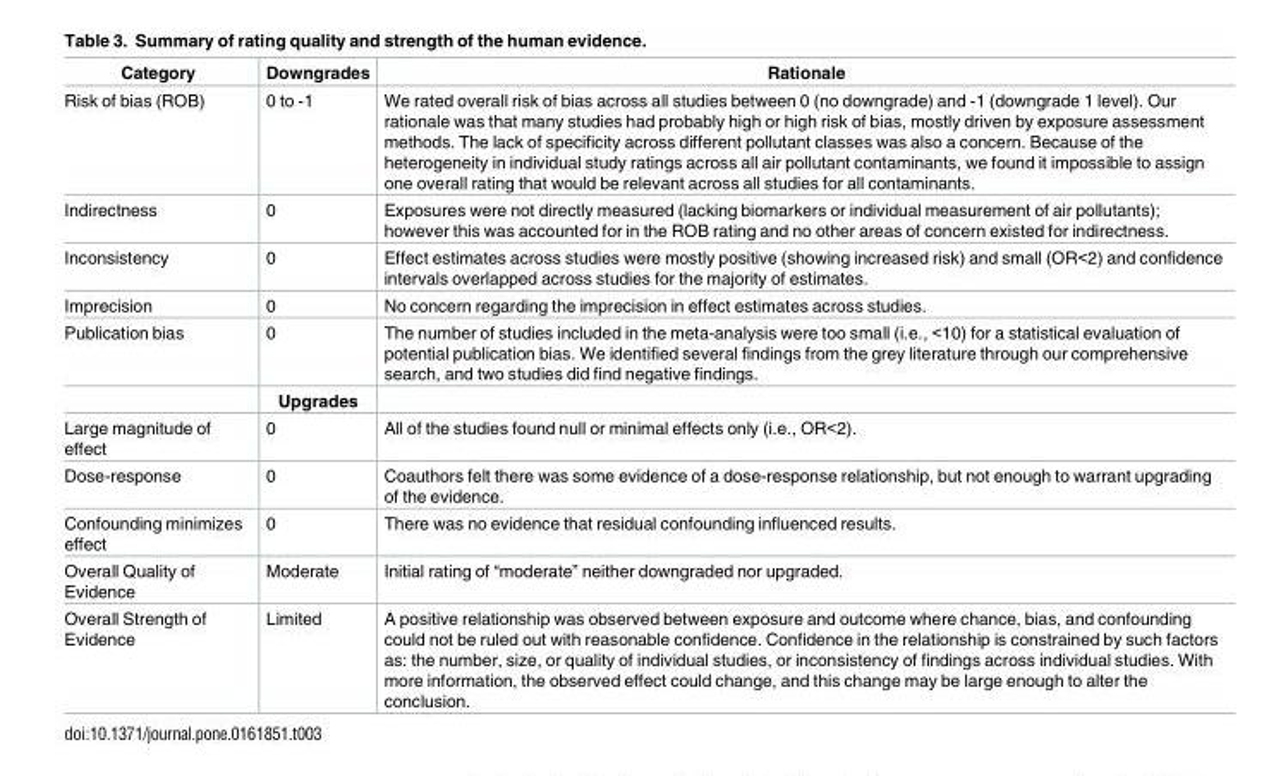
<table><thead><tr><td>Category</td><td>Downgrades</td><td>Rationale</td></tr></thead><tbody><tr><td>Risk of bias (ROB)</td><td>0 to -1</td><td>We rated overall risk of bias across all studies between 0 (no downgrade) and -1 (downgrade 1 level). Our rationale was that many studies had probably high or high risk of bias, mostly driven by exposure assessment methods. The lack of specificity across different pollutant classes was also a concern. Because of the heterogeneity in individual study ratings across all air pollutant contaminants, we found it impossible to assign one overall rating that would be relevant across all studies for all contaminants.</td></tr><tr><td>Indirectness</td><td>0</td><td>Exposures were not directly measured (lacking biomarkers or individual measurement of air pollutants); however this was accounted for in the ROB rating and no other areas of concern existed for indirectness.</td></tr><tr><td>Inconsistency</td><td>0</td><td>Effect estimates across studies were mostly positive (showing increased risk) and small (OR&lt;2) and confidence intervals overlapped across studies for the majority of estimates.</td></tr><tr><td>Imprecision</td><td>0</td><td>No concern regarding the imprecision in effect estimates across studies.</td></tr><tr><td rowspan="2">Publication bias</td><td>0</td><td>The number of studies included in the meta-analysis were too small (i.e., &lt;10) for a statistical evaluation of potential publication bias. We identified several findings from the grey literature through our comprehensive search, and two studies did find negative findings.</td></tr><tr><td>Upgrades</td><td></td></tr><tr><td>Large magnitude of effect</td><td>0</td><td>All of the studies found null or minimal effects only (i.e., OR&lt;2).</td></tr><tr><td>Dose-response</td><td>0</td><td>Coauthors felt there was some evidence of a dose-response relationship, but not enough to warrant upgrading of the evidence.</td></tr><tr><td>Confounding minimizes effect</td><td>0</td><td>There was no evidence that residual confounding influenced results.</td></tr><tr><td>Overall Quality of Evidence</td><td>Moderate</td><td>Initial rating of “moderate” neither downgraded nor upgraded.</td></tr><tr><td>Overall Strength of Evidence</td><td>Limited</td><td>A positive relationship was observed between exposure and outcome where chance, bias, and confounding could not be ruled out with reasonable confidence. Confidence in the relationship is constrained by such factors as: the number, size, or quality of individual studies, or inconsistency of findings across individual studies. With more information, the observed effect could change, and this change may be large enough to alter the conclusion.</td></tr></tbody></table>